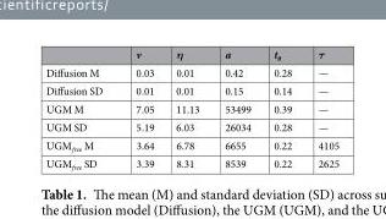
<table><thead><tr><td></td><td>v</td><td>η</td><td>a</td><td>t<sub>0</sub></td><td>τ</td></tr></thead><tbody><tr><td>Diffusion M</td><td>0.03</td><td>0.01</td><td>0.42</td><td>0.28</td><td>—</td></tr><tr><td>Diffusion SD</td><td>0.01</td><td>0.01</td><td>0.15</td><td>0.14</td><td>—</td></tr><tr><td>UGM M</td><td>7.05</td><td>11.13</td><td>53499</td><td>0.39</td><td>—</td></tr><tr><td>UGM SD</td><td>5.19</td><td>6.03</td><td>26034</td><td>0.28</td><td>—</td></tr><tr><td>UGM<sub>free</sub> M</td><td>3.64</td><td>6.78</td><td>6655</td><td>0.22</td><td>4105</td></tr><tr><td>UGM<sub>free</sub> SD</td><td>3.39</td><td>8.31</td><td>8539</td><td>0.22</td><td>2625</td></tr></tbody></table>